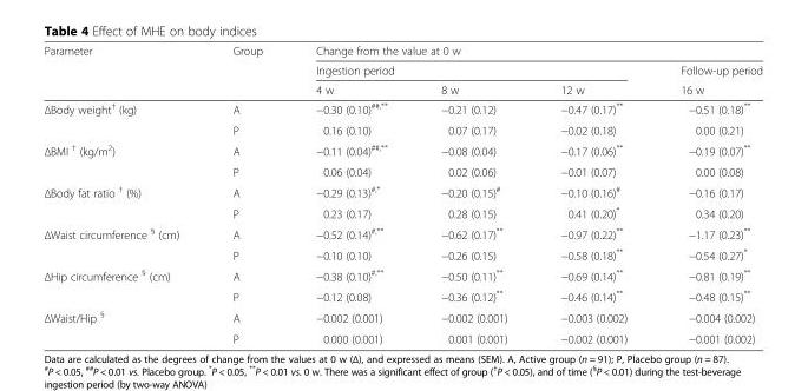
<table><thead><tr><td rowspan="3">Parameter</td><td rowspan="3">Group</td><td colspan="4">Change from the value at 0 w</td></tr><tr><td colspan="3">Ingestion period</td><td rowspan="2">Follow-up period 16 w</td></tr><tr><td>4 w</td><td>8 w</td><td>12 w</td></tr></thead><tbody><tr><td rowspan="2">ΔBody weight† (kg)</td><td>A</td><td>−0.30 (0.10)<sup>##,**</sup></td><td>−0.21 (0.12)</td><td>−0.47 (0.17)**</td><td>−0.51 (0.18)**</td></tr><tr><td>P</td><td>0.16 (0.10)</td><td>0.07 (0.17)</td><td>−0.02 (0.18)</td><td>0.00 (0.21)</td></tr><tr><td rowspan="2">ΔBMI † (kg/m2)</td><td>A</td><td>−0.11 (0.04)<sup>##,**</sup></td><td>−0.08 (0.04)</td><td>−0.17 (0.06)**</td><td>−0.19 (0.07)**</td></tr><tr><td>P</td><td>0.06 (0.04)</td><td>0.02 (0.06)</td><td>−0.01 (0.07)</td><td>0.00 (0.08)</td></tr><tr><td rowspan="2">ΔBody fat ratio † (%)</td><td>A</td><td>−0.29 (0.13)<sup>#,*</sup></td><td>−0.20 (0.15)<sup>#</sup></td><td>−0.10 (0.16)<sup>#</sup></td><td>−0.16 (0.17)</td></tr><tr><td>P</td><td>0.23 (0.17)</td><td>0.28 (0.15)</td><td>0.41 (0.20)*</td><td>0.34 (0.20)</td></tr><tr><td rowspan="2">ΔWaist circumference § (cm)</td><td>A</td><td>−0.52 (0.14)<sup>#,**</sup></td><td>−0.62 (0.17)**</td><td>−0.97 (0.22)**</td><td>−1.17 (0.23)**</td></tr><tr><td>P</td><td>−0.10 (0.10)</td><td>−0.26 (0.15)</td><td>−0.58 (0.18)**</td><td>−0.54 (0.27)*</td></tr><tr><td rowspan="2">ΔHip circumference § (cm)</td><td>A</td><td>−0.38 (0.10)<sup>#,**</sup></td><td>−0.50 (0.11)**</td><td>−0.69 (0.14)**</td><td>−0.81 (0.19)**</td></tr><tr><td>P</td><td>−0.12 (0.08)</td><td>−0.36 (0.12)**</td><td>−0.46 (0.14)**</td><td>−0.48 (0.15)**</td></tr><tr><td rowspan="2">ΔWaist/Hip §</td><td>A</td><td>−0.002 (0.001)</td><td>−0.002 (0.001)</td><td>−0.003 (0.002)</td><td>−0.004 (0.002)</td></tr><tr><td>P</td><td>0.000 (0.001)</td><td>0.001 (0.001)</td><td>−0.002 (0.001)</td><td>−0.001 (0.002)</td></tr></tbody></table>